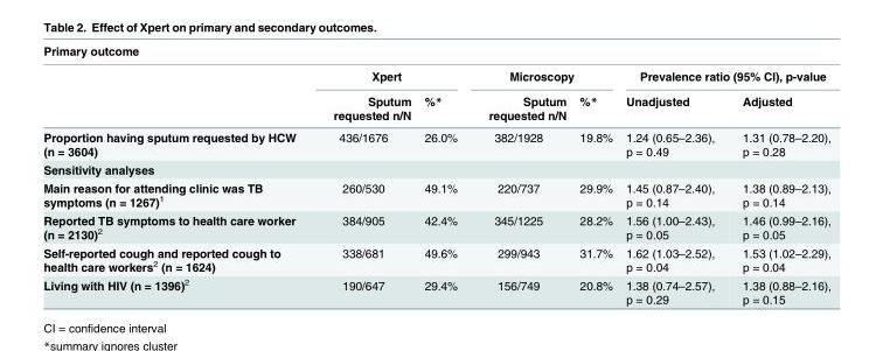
<table><thead><tr><td colspan="7">Primary outcome</td></tr><tr><td rowspan="2"></td><td colspan="2">Xpert</td><td colspan="2">Microscopy</td><td colspan="2">Prevalence ratio (95% CI), p-value</td></tr><tr><td>Sputum requested n/N</td><td>%*</td><td>Sputum requested n/N</td><td>%*</td><td>Unadjusted</td><td>Adjusted</td></tr></thead><tbody><tr><td>Proportion having sputum requested by HCW (n = 3604)</td><td>436/1676</td><td>26.0%</td><td>382/1928</td><td>19.8%</td><td>1.24 (0.65–2.36), p = 0.49</td><td>1.31 (0.78–2.20), p = 0.28</td></tr><tr><td colspan="7">Sensitivity analyses</td></tr><tr><td>Main reason for attending clinic was TB symptoms (n = 1267)<sup>1</sup></td><td>260/530</td><td>49.1%</td><td>220/737</td><td>29.9%</td><td>1.45 (0.87–2.40), p = 0.14</td><td>1.38 (0.89–2.13), p = 0.14</td></tr><tr><td>Reported TB symptoms to health care worker (n = 2130)<sup>2</sup></td><td>384/905</td><td>42.4%</td><td>345/1225</td><td>28.2%</td><td>1.56 (1.00–2.43), p = 0.05</td><td>1.46 (0.99–2.16), p = 0.05</td></tr><tr><td>Self-reported cough and reported cough to health care workers<sup>2</sup> (n = 1624)</td><td>338/681</td><td>49.6%</td><td>299/943</td><td>31.7%</td><td>1.62 (1.03–2.52), p = 0.04</td><td>1.53 (1.02–2.29), p = 0.04</td></tr><tr><td>Living with HIV (n = 1396)<sup>2</sup></td><td>190/647</td><td>29.4%</td><td>156/749</td><td>20.8%</td><td>1.38 (0.74–2.57), p = 0.29</td><td>1.38 (0.88–2.16), p = 0.15</td></tr></tbody></table>